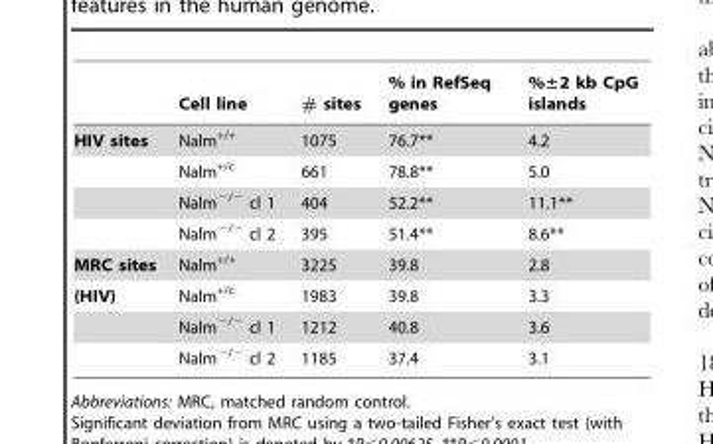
<table><thead><tr><td></td><td>Cell line</td><td># sites</td><td>% in RefSeq genes</td><td>%±2 kb CpG islands</td></tr></thead><tbody><tr><td rowspan="4">HIV sites</td><td>Nalm<sup>+/+</sup></td><td>1075</td><td>76.7**</td><td>4.2</td></tr><tr><td>Nalm<sup>+/c</sup></td><td>661</td><td>78.8**</td><td>5.0</td></tr><tr><td>Nalm<sup>−/−</sup> cl 1</td><td>404</td><td>52.2**</td><td>11.1**</td></tr><tr><td>Nalm<sup>−/−</sup> cl 2</td><td>395</td><td>51.4**</td><td>8.6**</td></tr><tr><td>MRC sites</td><td>Nalm<sup>+/+</sup></td><td>3225</td><td>39.8</td><td>2.8</td></tr><tr><td rowspan="3">(HIV)</td><td>Nalm<sup>+/c</sup></td><td>1983</td><td>39.8</td><td>3.3</td></tr><tr><td>Nalm<sup>−/−</sup> cl 1</td><td>1212</td><td>40.8</td><td>3.6</td></tr><tr><td>Nalm<sup>−/−</sup> cl 2</td><td>1185</td><td>37.4</td><td>3.1</td></tr></tbody></table>